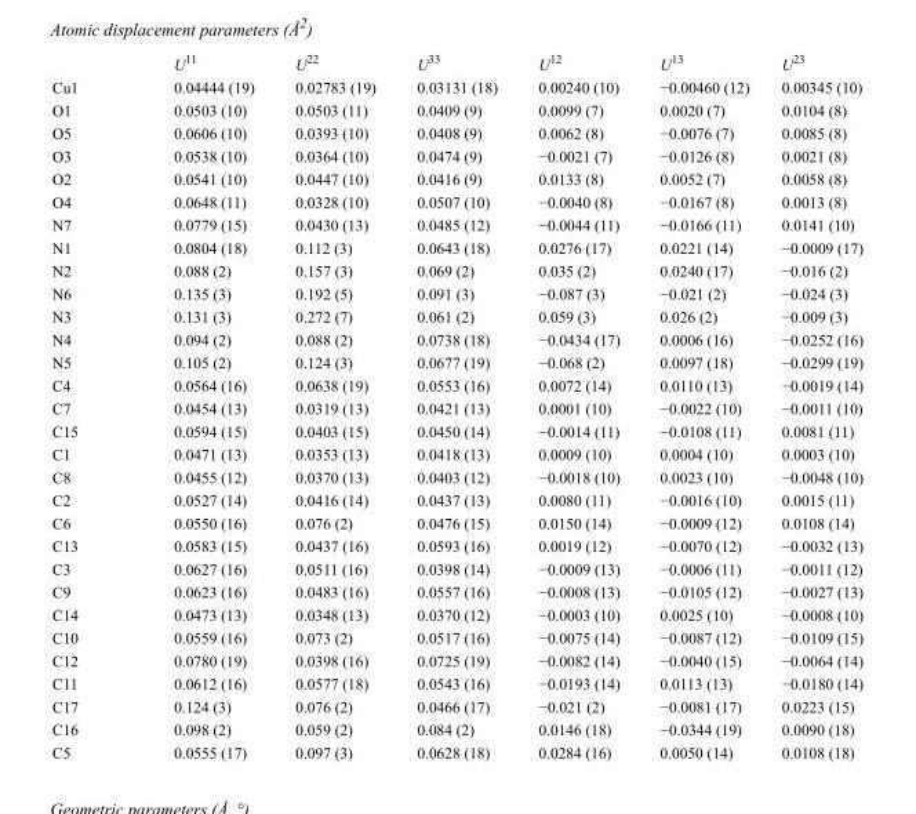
<table><thead><tr><td></td><td>U<sup>11</sup></td><td>U<sup>22</sup></td><td>U<sup>33</sup></td><td>U<sup>12</sup></td><td>U<sup>13</sup></td><td>U<sup>23</sup></td></tr></thead><tbody><tr><td>Cu1</td><td>0.04444 (19)</td><td>0.02783 (19)</td><td>0.03131 (18)</td><td>0.00240 (10)</td><td>−0.00460 (12)</td><td>0.00345 (10)</td></tr><tr><td>O1</td><td>0.0503 (10)</td><td>0.0503 (11)</td><td>0.0409 (9)</td><td>0.0099 (7)</td><td>0.0020 (7)</td><td>0.0104 (8)</td></tr><tr><td>O5</td><td>0.0606 (10)</td><td>0.0393 (10)</td><td>0.0408 (9)</td><td>0.0062 (8)</td><td>−0.0076 (7)</td><td>0.0085 (8)</td></tr><tr><td>O3</td><td>0.0538 (10)</td><td>0.0364 (10)</td><td>0.0474 (9)</td><td>−0.0021 (7)</td><td>−0.0126 (8)</td><td>0.0021 (8)</td></tr><tr><td>O2</td><td>0.0541 (10)</td><td>0.0447 (10)</td><td>0.0416 (9)</td><td>0.0133 (8)</td><td>0.0052 (7)</td><td>0.0058 (8)</td></tr><tr><td>O4</td><td>0.0648 (11)</td><td>0.0328 (10)</td><td>0.0507 (10)</td><td>−0.0040 (8)</td><td>−0.0167 (8)</td><td>0.0013 (8)</td></tr><tr><td>N7</td><td>0.0779 (15)</td><td>0.0430 (13)</td><td>0.0485 (12)</td><td>−0.0044 (11)</td><td>−0.0166 (11)</td><td>0.0141 (10)</td></tr><tr><td>N1</td><td>0.0804 (18)</td><td>0.112 (3)</td><td>0.0643 (18)</td><td>0.0276 (17)</td><td>0.0221 (14)</td><td>−0.0009 (17)</td></tr><tr><td>N2</td><td>0.088 (2)</td><td>0.157 (3)</td><td>0.069 (2)</td><td>0.035 (2)</td><td>0.0240 (17)</td><td>−0.016 (2)</td></tr><tr><td>N6</td><td>0.135 (3)</td><td>0.192 (5)</td><td>0.091 (3)</td><td>−0.087 (3)</td><td>−0.021 (2)</td><td>−0.024 (3)</td></tr><tr><td>N3</td><td>0.131 (3)</td><td>0.272 (7)</td><td>0.061 (2)</td><td>0.059 (3)</td><td>0.026 (2)</td><td>−0.009 (3)</td></tr><tr><td>N4</td><td>0.094 (2)</td><td>0.088 (2)</td><td>0.0738 (18)</td><td>−0.0434 (17)</td><td>0.0006 (16)</td><td>−0.0252 (16)</td></tr><tr><td>N5</td><td>0.105 (2)</td><td>0.124 (3)</td><td>0.0677 (19)</td><td>−0.068 (2)</td><td>0.0097 (18)</td><td>−0.0299 (19)</td></tr><tr><td>C4</td><td>0.0564 (16)</td><td>0.0638 (19)</td><td>0.0553 (16)</td><td>0.0072 (14)</td><td>0.0110 (13)</td><td>−0.0019 (14)</td></tr><tr><td>C7</td><td>0.0454 (13)</td><td>0.0319 (13)</td><td>0.0421 (13)</td><td>0.0001 (10)</td><td>−0.0022 (10)</td><td>−0.0011 (10)</td></tr><tr><td>C15</td><td>0.0594 (15)</td><td>0.0403 (15)</td><td>0.0450 (14)</td><td>−0.0014 (11)</td><td>−0.0108 (11)</td><td>0.0081 (11)</td></tr><tr><td>C1</td><td>0.0471 (13)</td><td>0.0353 (13)</td><td>0.0418 (13)</td><td>0.0009 (10)</td><td>0.0004 (10)</td><td>0.0003 (10)</td></tr><tr><td>C8</td><td>0.0455 (12)</td><td>0.0370 (13)</td><td>0.0403 (12)</td><td>−0.0018 (10)</td><td>0.0023 (10)</td><td>−0.0048 (10)</td></tr><tr><td>C2</td><td>0.0527 (14)</td><td>0.0416 (14)</td><td>0.0437 (13)</td><td>0.0080 (11)</td><td>−0.0016 (10)</td><td>0.0015 (11)</td></tr><tr><td>C6</td><td>0.0550 (16)</td><td>0.076 (2)</td><td>0.0476 (15)</td><td>0.0150 (14)</td><td>−0.0009 (12)</td><td>0.0108 (14)</td></tr><tr><td>C13</td><td>0.0583 (15)</td><td>0.0437 (16)</td><td>0.0593 (16)</td><td>0.0019 (12)</td><td>−0.0070 (12)</td><td>−0.0032 (13)</td></tr><tr><td>C3</td><td>0.0627 (16)</td><td>0.0511 (16)</td><td>0.0398 (14)</td><td>−0.0009 (13)</td><td>−0.0006 (11)</td><td>−0.0011 (12)</td></tr><tr><td>C9</td><td>0.0623 (16)</td><td>0.0483 (16)</td><td>0.0557 (16)</td><td>−0.0008 (13)</td><td>−0.0105 (12)</td><td>−0.0027 (13)</td></tr><tr><td>C14</td><td>0.0473 (13)</td><td>0.0348 (13)</td><td>0.0370 (12)</td><td>−0.0003 (10)</td><td>0.0025 (10)</td><td>−0.0008 (10)</td></tr><tr><td>C10</td><td>0.0559 (16)</td><td>0.073 (2)</td><td>0.0517 (16)</td><td>−0.0075 (14)</td><td>−0.0087 (12)</td><td>−0.0109 (15)</td></tr><tr><td>C12</td><td>0.0780 (19)</td><td>0.0398 (16)</td><td>0.0725 (19)</td><td>−0.0082 (14)</td><td>−0.0040 (15)</td><td>−0.0064 (14)</td></tr><tr><td>C11</td><td>0.0612 (16)</td><td>0.0577 (18)</td><td>0.0543 (16)</td><td>−0.0193 (14)</td><td>0.0113 (13)</td><td>−0.0180 (14)</td></tr><tr><td>C17</td><td>0.124 (3)</td><td>0.076 (2)</td><td>0.0466 (17)</td><td>−0.021 (2)</td><td>−0.0081 (17)</td><td>0.0223 (15)</td></tr><tr><td>C16</td><td>0.098 (2)</td><td>0.059 (2)</td><td>0.084 (2)</td><td>0.0146 (18)</td><td>−0.0344 (19)</td><td>0.0090 (18)</td></tr><tr><td>C5</td><td>0.0555 (17)</td><td>0.097 (3)</td><td>0.0628 (18)</td><td>0.0284 (16)</td><td>0.0050 (14)</td><td>0.0108 (18)</td></tr></tbody></table>